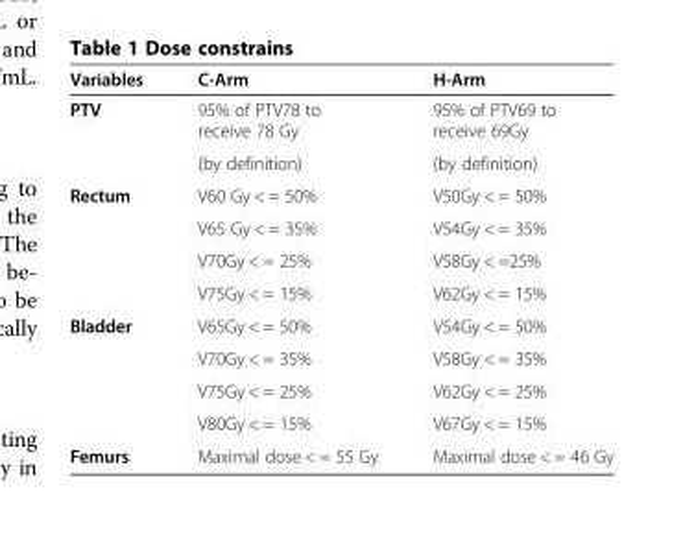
<table><thead><tr><td>Variables</td><td>C-Arm</td><td>H-Arm</td></tr></thead><tbody><tr><td rowspan="2">PTV</td><td>95% of PTV78 to receive 78 Gy</td><td>95% of PTV69 to receive 69Gy</td></tr><tr><td>(by definition)</td><td>(by definition)</td></tr><tr><td rowspan="4">Rectum</td><td>V60 Gy &lt; = 50%</td><td>V50Gy &lt; = 50%</td></tr><tr><td>V65 Gy &lt; = 35%</td><td>V54Gy &lt; = 35%</td></tr><tr><td>V70Gy &lt; = 25%</td><td>V58Gy &lt; =25%</td></tr><tr><td>V75Gy &lt; = 15%</td><td>V62Gy &lt; = 15%</td></tr><tr><td rowspan="4">Bladder</td><td>V65Gy &lt; = 50%</td><td>V54Gy &lt; = 50%</td></tr><tr><td>V70Gy &lt; = 35%</td><td>V58Gy &lt; = 35%</td></tr><tr><td>V75Gy &lt; = 25%</td><td>V62Gy &lt; = 25%</td></tr><tr><td>V80Gy &lt; = 15%</td><td>V67Gy &lt; = 15%</td></tr><tr><td>Femurs</td><td>Maximal dose &lt; = 55 Gy</td><td>Maximal dose &lt; = 46 Gy</td></tr></tbody></table>